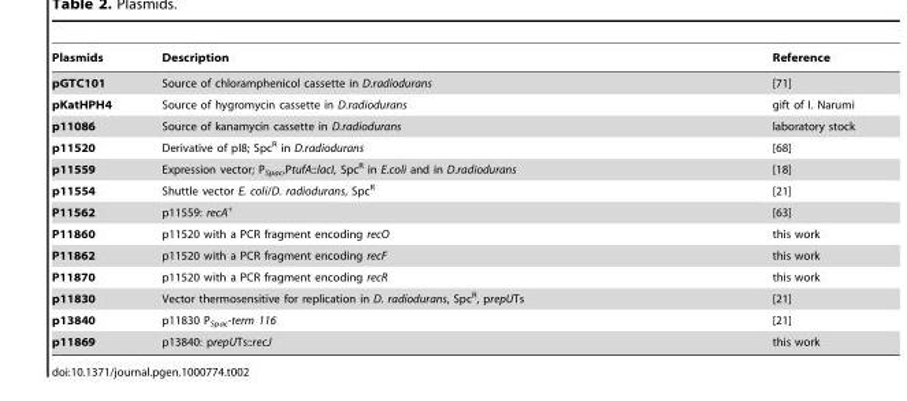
<table><thead><tr><td>Plasmids</td><td>Description</td><td>Reference</td></tr></thead><tbody><tr><td>pGTC101</td><td>Source of chloramphenicol cassette in D.radiodurans</td><td>[71]</td></tr><tr><td>pKatHPH4</td><td>Source of hygromycin cassette in D.radiodurans</td><td>gift of I. Narumi</td></tr><tr><td>p11086</td><td>Source of kanamycin cassette in D.radiodurans</td><td>laboratory stock</td></tr><tr><td>p11520</td><td>Derivative of pI8; Spc<sup>R</sup> in D.radiodurans</td><td>[68]</td></tr><tr><td>p11559</td><td>Expression vector; P<sub>Spac</sub>,PtufA::lacI, Spc<sup>R</sup> in E.coli and in D.radiodurans</td><td>[18]</td></tr><tr><td>p11554</td><td>Shuttle vector E. coli/D. radiodurans, Spc<sup>R</sup></td><td>[21]</td></tr><tr><td>P11562</td><td>p11559: recA<sup>+</sup></td><td>[63]</td></tr><tr><td>P11860</td><td>p11520 with a PCR fragment encoding recO</td><td>this work</td></tr><tr><td>P11862</td><td>p11520 with a PCR fragment encoding recF</td><td>this work</td></tr><tr><td>P11870</td><td>p11520 with a PCR fragment encoding recR</td><td>this work</td></tr><tr><td>p11830</td><td>Vector thermosensitive for replication in D. radiodurans, Spc<sup>R</sup>, prepUTs</td><td>[21]</td></tr><tr><td>p13840</td><td>p11830 P<sub>Spac</sub>-term 116</td><td>[21]</td></tr><tr><td>p11869</td><td>p13840: prepUTs::recJ</td><td>this work</td></tr></tbody></table>